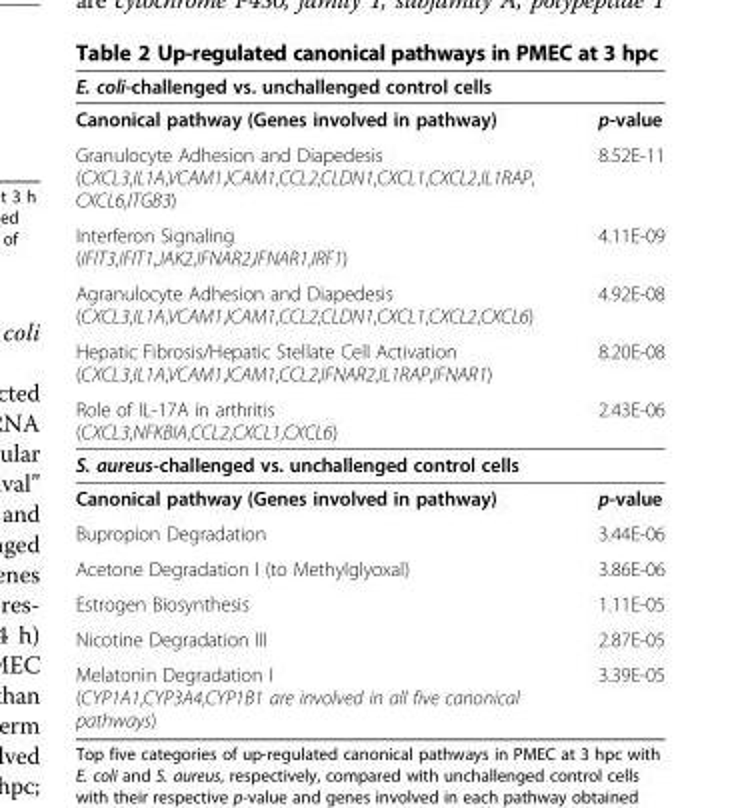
<table><thead><tr><td>E. coli-challenged vs. unchallenged control cells</td><td></td></tr></thead><tbody><tr><td>Canonical pathway (Genes involved in pathway)</td><td>p-value</td></tr><tr><td>Granulocyte Adhesion and Diapedesis (CXCL3,IL1A,VCAM1,ICAM1,CCL2,CLDN1,CXCL1,CXCL2,IL1RAP, CXCL6,ITGB3)</td><td>8.52E-11</td></tr><tr><td>Interferon Signaling (IFIT3,IFIT1,JAK2,IFNAR2,IFNAR1,IRF1)</td><td>4.11E-09</td></tr><tr><td>Agranulocyte Adhesion and Diapedesis (CXCL3,IL1A,VCAM1,ICAM1,CCL2,CLDN1,CXCL1,CXCL2,CXCL6)</td><td>4.92E-08</td></tr><tr><td>Hepatic Fibrosis/Hepatic Stellate Cell Activation (CXCL3,IL1A,VCAM1,ICAM1,CCL2,IFNAR2,IL1RAP,IFNAR1)</td><td>8.20E-08</td></tr><tr><td>Role of IL-17A in arthritis (CXCL3,NFKBIA,CCL2,CXCL1,CXCL6)</td><td>2.43E-06</td></tr><tr><td colspan="2">S. aureus-challenged vs. unchallenged control cells</td></tr><tr><td>Canonical pathway (Genes involved in pathway)</td><td>p-value</td></tr><tr><td>Bupropion Degradation</td><td>3.44E-06</td></tr><tr><td>Acetone Degradation I (to Methylglyoxal)</td><td>3.86E-06</td></tr><tr><td>Estrogen Biosynthesis</td><td>1.11E-05</td></tr><tr><td>Nicotine Degradation III</td><td>2.87E-05</td></tr><tr><td>Melatonin Degradation I (CYP1A1,CYP3A4,CYP1B1 are involved in all five canonical pathways)</td><td>3.39E-05</td></tr></tbody></table>